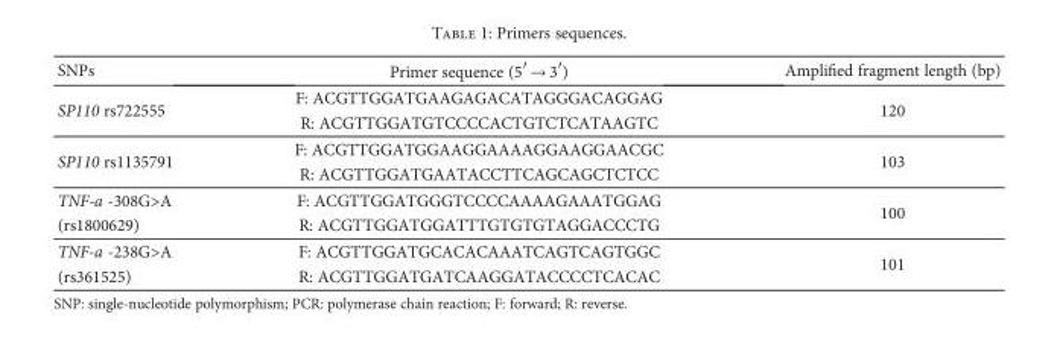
<table><thead><tr><td>SNPs</td><td>Primer sequence (5′ → 3′)</td><td>Amplified fragment length (bp)</td></tr></thead><tbody><tr><td rowspan="2">SP110 rs722555</td><td>F: ACGTTGGATGAAGAGACATAGGGACAGGAG</td><td rowspan="2">120</td></tr><tr><td>R: ACGTTGGATGTCCCCACTGTCTCATAAGTC</td></tr><tr><td rowspan="2">SP110 rs1135791</td><td>F: ACGTTGGATGGAAGGAAAAGGAAGGAACGC</td><td rowspan="2">103</td></tr><tr><td>R: ACGTTGGATGAATACCTTCAGCAGCTCTCC</td></tr><tr><td>TNF-a -308G&gt;A</td><td>F: ACGTTGGATGGGTCCCCAAAAGAAATGGAG</td><td rowspan="2">100</td></tr><tr><td>(rs1800629)</td><td>R: ACGTTGGATGGATTTGTGTGTAGGACCCTG</td></tr><tr><td>TNF-a -238G&gt;A</td><td>F: ACGTTGGATGCACACAAATCAGTCAGTGGC</td><td rowspan="2">101</td></tr><tr><td>(rs361525)</td><td>R: ACGTTGGATGATCAAGGATACCCCTCACAC</td></tr></tbody></table>